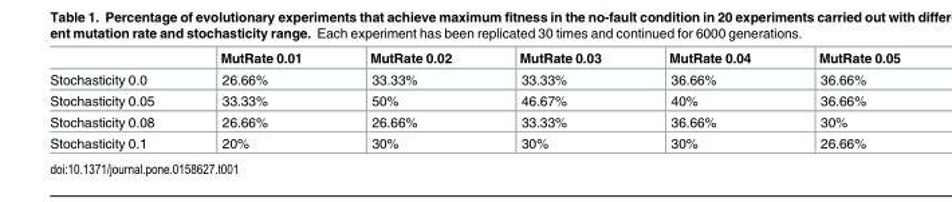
<table><thead><tr><td></td><td>MutRate 0.01</td><td>MutRate 0.02</td><td>MutRate 0.03</td><td>MutRate 0.04</td><td>MutRate 0.05</td></tr></thead><tbody><tr><td>Stochasticity 0.0</td><td>26.66%</td><td>33.33%</td><td>33.33%</td><td>36.66%</td><td>36.66%</td></tr><tr><td>Stochasticity 0.05</td><td>33.33%</td><td>50%</td><td>46.67%</td><td>40%</td><td>36.66%</td></tr><tr><td>Stochasticity 0.08</td><td>26.66%</td><td>26.66%</td><td>33.33%</td><td>36.66%</td><td>30%</td></tr><tr><td>Stochasticity 0.1</td><td>20%</td><td>30%</td><td>30%</td><td>30%</td><td>26.66%</td></tr></tbody></table>